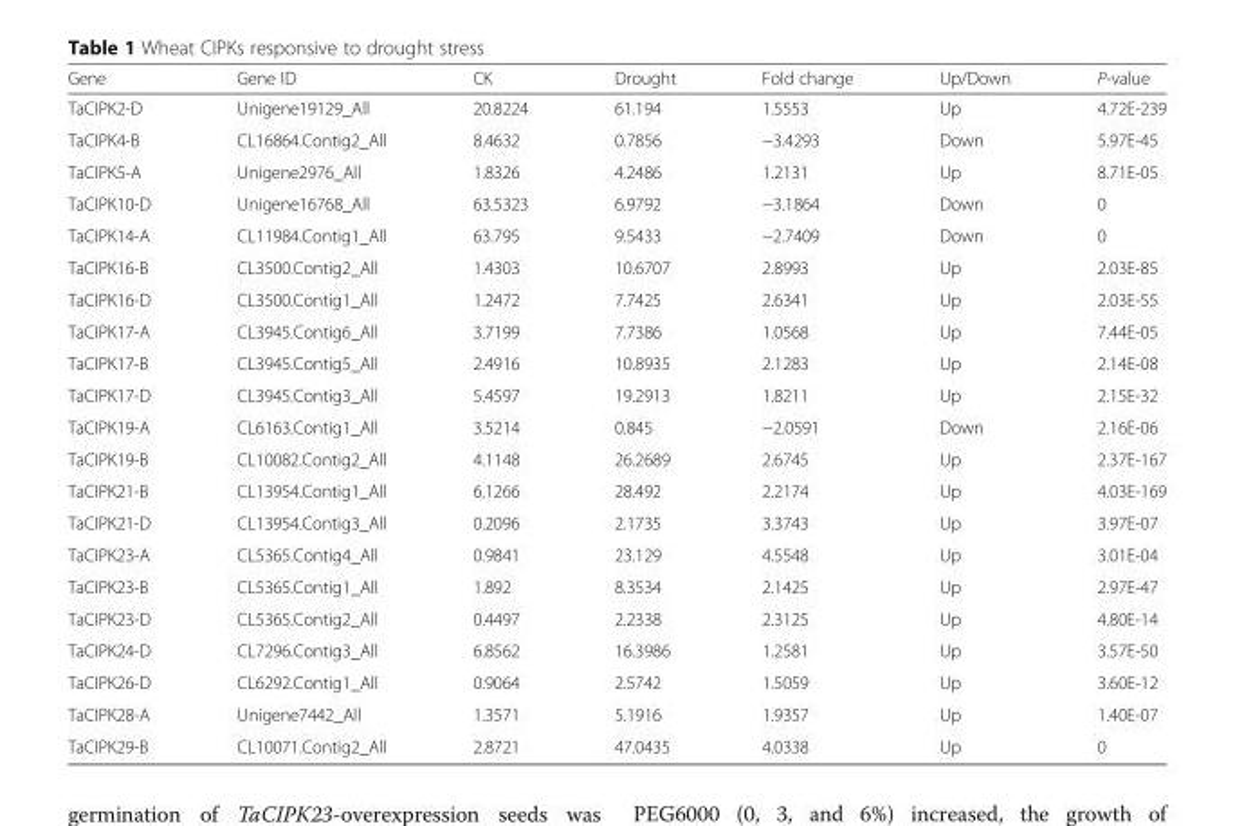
<table><thead><tr><td>Gene</td><td>Gene ID</td><td>CK</td><td>Drought</td><td>Fold change</td><td>Up/Down</td><td>P-value</td></tr></thead><tbody><tr><td>TaCIPK2-D</td><td>Unigene19129_All</td><td>20.8224</td><td>61.194</td><td>1.5553</td><td>Up</td><td>4.72E-239</td></tr><tr><td>TaCIPK4-B</td><td>CL16864.Contig2_All</td><td>8.4632</td><td>0.7856</td><td>−3.4293</td><td>Down</td><td>5.97E-45</td></tr><tr><td>TaCIPK5-A</td><td>Unigene2976_All</td><td>1.8326</td><td>4.2486</td><td>1.2131</td><td>Up</td><td>8.71E-05</td></tr><tr><td>TaCIPK10-D</td><td>Unigene16768_All</td><td>63.5323</td><td>6.9792</td><td>−3.1864</td><td>Down</td><td>0</td></tr><tr><td>TaCIPK14-A</td><td>CL11984.Contig1_All</td><td>63.795</td><td>9.5433</td><td>−2.7409</td><td>Down</td><td>0</td></tr><tr><td>TaCIPK16-B</td><td>CL3500.Contig2_All</td><td>1.4303</td><td>10.6707</td><td>2.8993</td><td>Up</td><td>2.03E-85</td></tr><tr><td>TaCIPK16-D</td><td>CL3500.Contig1_All</td><td>1.2472</td><td>7.7425</td><td>2.6341</td><td>Up</td><td>2.03E-55</td></tr><tr><td>TaCIPK17-A</td><td>CL3945.Contig6_All</td><td>3.7199</td><td>7.7386</td><td>1.0568</td><td>Up</td><td>7.44E-05</td></tr><tr><td>TaCIPK17-B</td><td>CL3945.Contig5_All</td><td>2.4916</td><td>10.8935</td><td>2.1283</td><td>Up</td><td>2.14E-08</td></tr><tr><td>TaCIPK17-D</td><td>CL3945.Contig3_All</td><td>5.4597</td><td>19.2913</td><td>1.8211</td><td>Up</td><td>2.15E-32</td></tr><tr><td>TaCIPK19-A</td><td>CL6163.Contig1_All</td><td>3.5214</td><td>0.845</td><td>−2.0591</td><td>Down</td><td>2.16E-06</td></tr><tr><td>TaCIPK19-B</td><td>CL10082.Contig2_All</td><td>4.1148</td><td>26.2689</td><td>2.6745</td><td>Up</td><td>2.37E-167</td></tr><tr><td>TaCIPK21-B</td><td>CL13954.Contig1_All</td><td>6.1266</td><td>28.492</td><td>2.2174</td><td>Up</td><td>4.03E-169</td></tr><tr><td>TaCIPK21-D</td><td>CL13954.Contig3_All</td><td>0.2096</td><td>2.1735</td><td>3.3743</td><td>Up</td><td>3.97E-07</td></tr><tr><td>TaCIPK23-A</td><td>CL5365.Contig4_All</td><td>0.9841</td><td>23.129</td><td>4.5548</td><td>Up</td><td>3.01E-04</td></tr><tr><td>TaCIPK23-B</td><td>CL5365.Contig1_All</td><td>1.892</td><td>8.3534</td><td>2.1425</td><td>Up</td><td>2.97E-47</td></tr><tr><td>TaCIPK23-D</td><td>CL5365.Contig2_All</td><td>0.4497</td><td>2.2338</td><td>2.3125</td><td>Up</td><td>4.80E-14</td></tr><tr><td>TaCIPK24-D</td><td>CL7296.Contig3_All</td><td>6.8562</td><td>16.3986</td><td>1.2581</td><td>Up</td><td>3.57E-50</td></tr><tr><td>TaCIPK26-D</td><td>CL6292.Contig1_All</td><td>0.9064</td><td>2.5742</td><td>1.5059</td><td>Up</td><td>3.60E-12</td></tr><tr><td>TaCIPK28-A</td><td>Unigene7442_All</td><td>1.3571</td><td>5.1916</td><td>1.9357</td><td>Up</td><td>1.40E-07</td></tr><tr><td>TaCIPK29-B</td><td>CL10071.Contig2_All</td><td>2.8721</td><td>47.0435</td><td>4.0338</td><td>Up</td><td>0</td></tr></tbody></table>